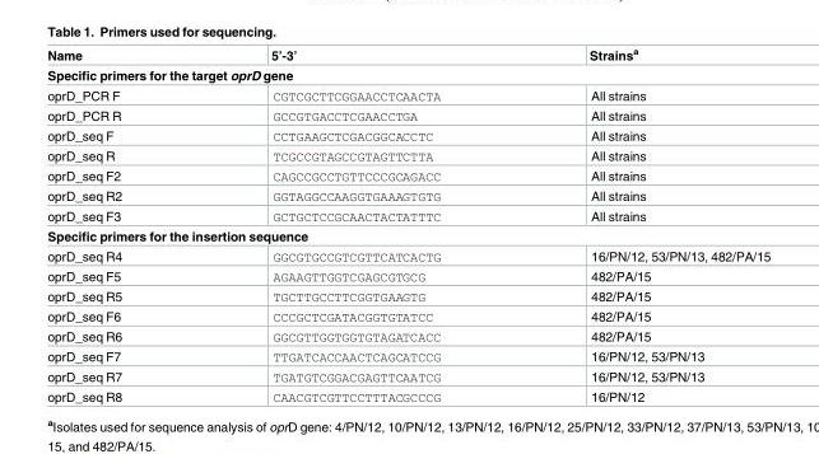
<table><thead><tr><td>Name</td><td>5’-3’</td><td>Strains<sup>a</sup></td></tr></thead><tbody><tr><td colspan="3">Specific primers for the target oprD gene</td></tr><tr><td>oprD_PCR F</td><td>CGTCGCTTCGGAACCTCAACTA</td><td>All strains</td></tr><tr><td>oprD_PCR R</td><td>GCCGTGACCTCGAACCTGA</td><td>All strains</td></tr><tr><td>oprD_seq F</td><td>CCTGAAGCTCGACGGCACCTC</td><td>All strains</td></tr><tr><td>oprD_seq R</td><td>TCGCCGTAGCCGTAGTTCTTA</td><td>All strains</td></tr><tr><td>oprD_seq F2</td><td>CAGCCGCCTGTTCCCGCAGACC</td><td>All strains</td></tr><tr><td>oprD_seq R2</td><td>GGTAGGCCAAGGTGAAAGTGTG</td><td>All strains</td></tr><tr><td>oprD_seq F3</td><td>GCTGCTCCGCAACTACTATTTC</td><td>All strains</td></tr><tr><td colspan="3">Specific primers for the insertion sequence</td></tr><tr><td>oprD_seq R4</td><td>GGCGTGCCGTCGTTCATCACTG</td><td>16/PN/12, 53/PN/13, 482/PA/15</td></tr><tr><td>oprD_seq F5</td><td>AGAAGTTGGTCGAGCGTGCG</td><td>482/PA/15</td></tr><tr><td>oprD_seq R5</td><td>TGCTTGCCTTCGGTGAAGTG</td><td>482/PA/15</td></tr><tr><td>oprD_seq F6</td><td>CCCGCTCGATACGGTGTATCC</td><td>482/PA/15</td></tr><tr><td>oprD_seq R6</td><td>GGCGTTGGTGGTGTAGATCACC</td><td>482/PA/15</td></tr><tr><td>oprD_seq F7</td><td>TTGATCACCAACTCAGCATCCG</td><td>16/PN/12, 53/PN/13</td></tr><tr><td>oprD_seq R7</td><td>TGATGTCGGACGAGTTCAATCG</td><td>16/PN/12, 53/PN/13</td></tr><tr><td>oprD_seq R8</td><td>CAACGTCGTTCCTTTACGCCCG</td><td>16/PN/12</td></tr></tbody></table>